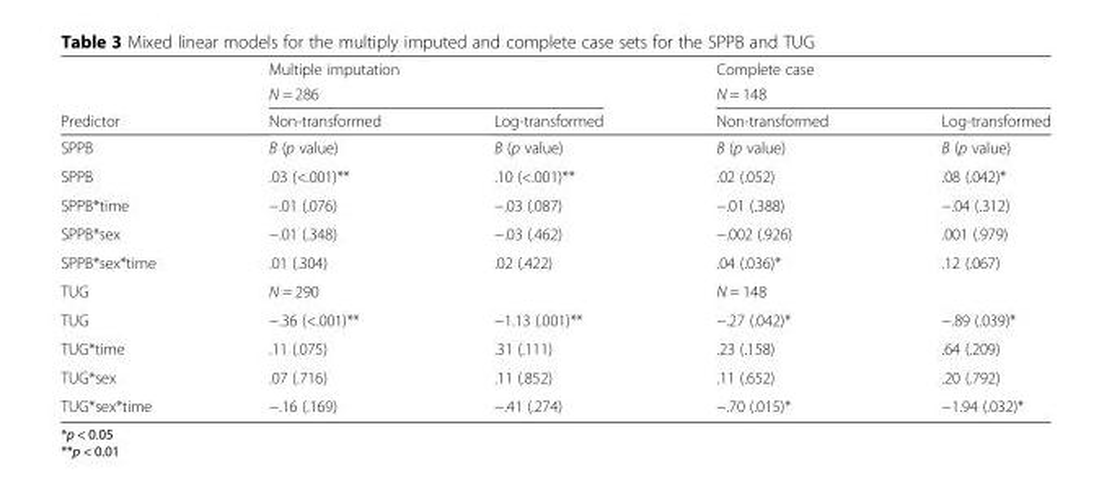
<table><thead><tr><td rowspan="3">Predictor</td><td rowspan="2" colspan="2">Multiple imputation N = 286</td><td rowspan="2" colspan="2">Complete case N = 148</td></tr><tr></tr><tr><td>Non-transformed</td><td>Log-transformed</td><td>Non-transformed</td><td>Log-transformed</td></tr></thead><tbody><tr><td>SPPB</td><td>B (p value)</td><td>B (p value)</td><td>B (p value)</td><td>B (p value)</td></tr><tr><td>SPPB</td><td>.03 (&lt;.001)**</td><td>.10 (&lt;.001)**</td><td>.02 (.052)</td><td>.08 (.042)*</td></tr><tr><td>SPPB*time</td><td>−.01 (.076)</td><td>−.03 (.087)</td><td>−.01 (.388)</td><td>−.04 (.312)</td></tr><tr><td>SPPB*sex</td><td>−.01 (.348)</td><td>−.03 (.462)</td><td>−.002 (.926)</td><td>.001 (.979)</td></tr><tr><td>SPPB*sex*time</td><td>.01 (.304)</td><td>.02 (.422)</td><td>.04 (.036)*</td><td>.12 (.067)</td></tr><tr><td>TUG</td><td colspan="2">N = 290</td><td colspan="2">N = 148</td></tr><tr><td>TUG</td><td>−.36 (&lt;.001)**</td><td>−1.13 (.001)**</td><td>−.27 (.042)*</td><td>−.89 (.039)*</td></tr><tr><td>TUG*time</td><td>.11 (.075)</td><td>.31 (.111)</td><td>.23 (.158)</td><td>.64 (.209)</td></tr><tr><td>TUG*sex</td><td>.07 (.716)</td><td>.11 (.852)</td><td>.11 (.652)</td><td>.20 (.792)</td></tr><tr><td>TUG*sex*time</td><td>−.16 (.169)</td><td>−.41 (.274)</td><td>−.70 (.015)*</td><td>−1.94 (.032)*</td></tr></tbody></table>